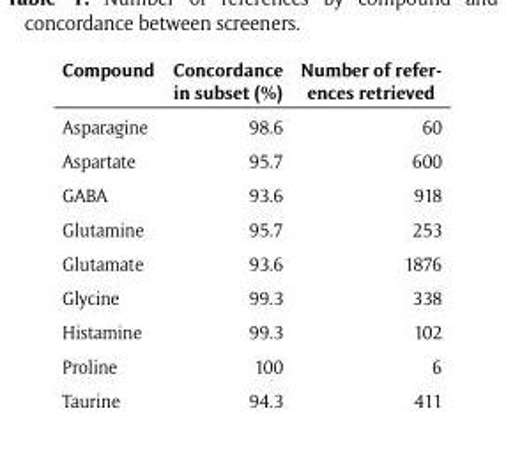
<table><thead><tr><td>Compound</td><td>Concordance in subset (%)</td><td>Number of refer- ences retrieved</td></tr></thead><tbody><tr><td>Asparagine</td><td>98.6</td><td>60</td></tr><tr><td>Aspartate</td><td>95.7</td><td>600</td></tr><tr><td>GABA</td><td>93.6</td><td>918</td></tr><tr><td>Glutamine</td><td>95.7</td><td>253</td></tr><tr><td>Glutamate</td><td>93.6</td><td>1876</td></tr><tr><td>Glycine</td><td>99.3</td><td>338</td></tr><tr><td>Histamine</td><td>99.3</td><td>102</td></tr><tr><td>Proline</td><td>100</td><td>6</td></tr><tr><td>Taurine</td><td>94.3</td><td>411</td></tr></tbody></table>